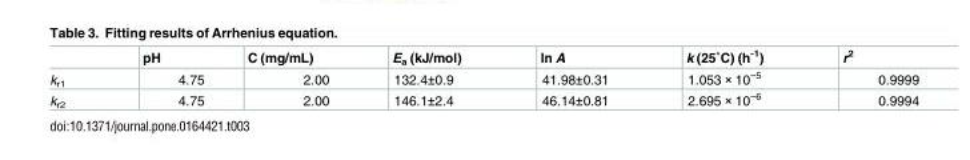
<table><thead><tr><td></td><td>pH</td><td>C (mg/mL)</td><td>E<sub>a</sub> (kJ/mol)</td><td>ln A</td><td>k (25˚C) (h-1)</td><td>r<sup>2</sup></td></tr></thead><tbody><tr><td>k<sub>r1</sub></td><td>4.75</td><td>2.00</td><td>132.4±0.9</td><td>41.98±0.31</td><td>1.053 × 10<sup>−5</sup></td><td>0.9999</td></tr><tr><td>k<sub>r2</sub></td><td>4.75</td><td>2.00</td><td>146.1±2.4</td><td>46.14±0.81</td><td>2.695 × 10<sup>−6</sup></td><td>0.9994</td></tr></tbody></table>